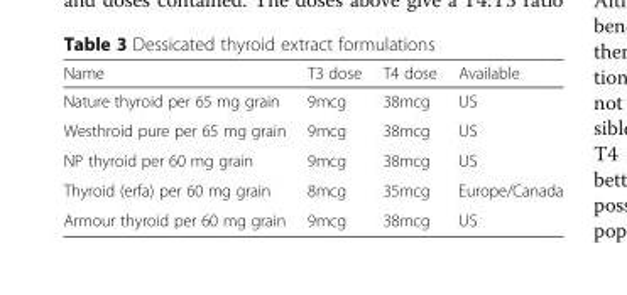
<table><thead><tr><td>Name</td><td>T3 dose</td><td>T4 dose</td><td>Available</td></tr></thead><tbody><tr><td>Nature thyroid per 65 mg grain</td><td>9mcg</td><td>38mcg</td><td>US</td></tr><tr><td>Westhroid pure per 65 mg grain</td><td>9mcg</td><td>38mcg</td><td>US</td></tr><tr><td>NP thyroid per 60 mg grain</td><td>9mcg</td><td>38mcg</td><td>US</td></tr><tr><td>Thyroid (erfa) per 60 mg grain</td><td>8mcg</td><td>35mcg</td><td>Europe/Canada</td></tr><tr><td>Armour thyroid per 60 mg grain</td><td>9mcg</td><td>38mcg</td><td>US</td></tr></tbody></table>